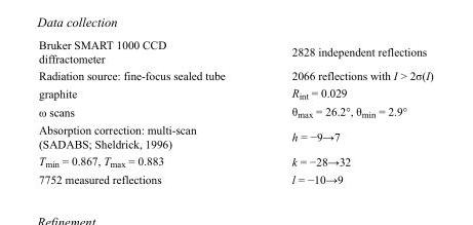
<table><tbody><tr><td>Bruker SMART 1000 CCD diffractometer</td><td>2828 independent reflections</td></tr><tr><td>Radiation source: fine-focus sealed tube</td><td>2066 reflections with I &gt; 2σ(I)</td></tr><tr><td>graphite</td><td>R<sub>int</sub> = 0.029</td></tr><tr><td>ω scans</td><td>θ<sub>max</sub> = 26.2°, θ<sub>min</sub> = 2.9°</td></tr><tr><td>Absorption correction: multi-scan (SADABS; Sheldrick, 1996)</td><td>h = −9→7</td></tr><tr><td>T<sub>min</sub> = 0.867, T<sub>max</sub> = 0.883</td><td>k = −28→32</td></tr><tr><td>7752 measured reflections</td><td>l = −10→9</td></tr></tbody></table>